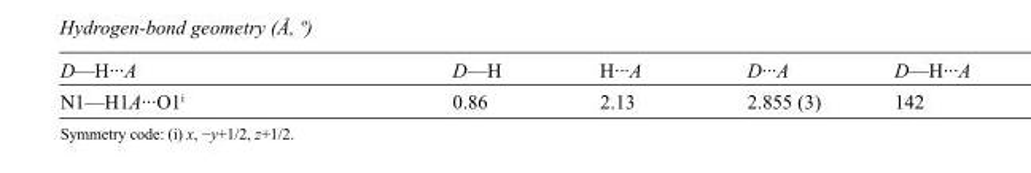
<table><tbody><tr><td>D—H···A</td><td>D—H</td><td>H···A</td><td>D···A</td><td>D—H···A</td></tr><tr><td>N1—H1A···O1<sup>i</sup></td><td>0.86</td><td>2.13</td><td>2.855 (3)</td><td>142</td></tr></tbody></table>